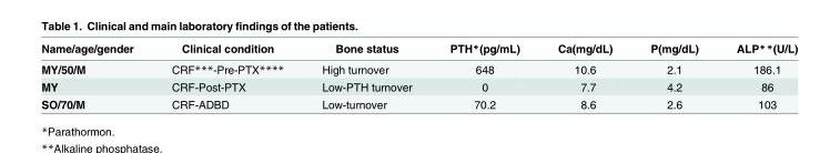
<table><thead><tr><td>Name/age/gender</td><td>Clinical condition</td><td>Bone status</td><td>PTH*(pg/mL)</td><td>Ca(mg/dL)</td><td>P(mg/dL)</td><td>ALP**(U/L)</td></tr></thead><tbody><tr><td>MY/50/M</td><td>CRF***-Pre-PTX****</td><td>High turnover</td><td>648</td><td>10.6</td><td>2.1</td><td>186.1</td></tr><tr><td>MY</td><td>CRF-Post-PTX</td><td>Low-PTH turnover</td><td>0</td><td>7.7</td><td>4.2</td><td>86</td></tr><tr><td>SO/70/M</td><td>CRF-ADBD</td><td>Low-turnover</td><td>70.2</td><td>8.6</td><td>2.6</td><td>103</td></tr></tbody></table>